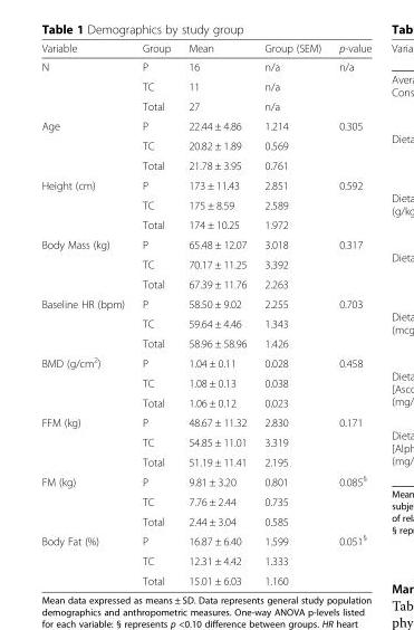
<table><thead><tr><td>Variable</td><td>Group</td><td>Mean</td><td>Group (SEM)</td><td>p-value</td></tr></thead><tbody><tr><td rowspan="3">N</td><td>P</td><td>16</td><td>n/a</td><td>n/a</td></tr><tr><td>TC</td><td>11</td><td>n/a</td><td></td></tr><tr><td>Total</td><td>27</td><td>n/a</td><td></td></tr><tr><td rowspan="3">Age</td><td>P</td><td>22.44 ± 4.86</td><td>1.214</td><td>0.305</td></tr><tr><td>TC</td><td>20.82 ± 1.89</td><td>0.569</td><td></td></tr><tr><td>Total</td><td>21.78 ± 3.95</td><td>0.761</td><td></td></tr><tr><td rowspan="3">Height (cm)</td><td>P</td><td>173 ± 11.43</td><td>2.851</td><td>0.592</td></tr><tr><td>TC</td><td>175 ± 8.59</td><td>2.589</td><td></td></tr><tr><td>Total</td><td>174 ± 10.25</td><td>1.972</td><td></td></tr><tr><td rowspan="3">Body Mass (kg)</td><td>P</td><td>65.48 ± 12.07</td><td>3.018</td><td>0.317</td></tr><tr><td>TC</td><td>70.17 ± 11.25</td><td>3.392</td><td></td></tr><tr><td>Total</td><td>67.39 ± 11.76</td><td>2.263</td><td></td></tr><tr><td rowspan="3">Baseline HR (bpm)</td><td>P</td><td>58.50 ± 9.02</td><td>2.255</td><td>0.703</td></tr><tr><td>TC</td><td>59.64 ± 4.46</td><td>1.343</td><td></td></tr><tr><td>Total</td><td>58.96 ± 58.96</td><td>1.426</td><td></td></tr><tr><td rowspan="3">BMD (g/cm<sup>2</sup>)</td><td>P</td><td>1.04 ± 0.11</td><td>0.028</td><td>0.458</td></tr><tr><td>TC</td><td>1.08 ± 0.13</td><td>0.038</td><td></td></tr><tr><td>Total</td><td>1.06 ± 0.12</td><td>0.023</td><td></td></tr><tr><td rowspan="3">FFM (kg)</td><td>P</td><td>48.67 ± 11.32</td><td>2.830</td><td>0.171</td></tr><tr><td>TC</td><td>54.85 ± 11.01</td><td>3.319</td><td></td></tr><tr><td>Total</td><td>51.19 ± 11.41</td><td>2.195</td><td></td></tr><tr><td rowspan="3">FM (kg)</td><td>P</td><td>9.81 ± 3.20</td><td>0.801</td><td>0.085<sup>§</sup></td></tr><tr><td>TC</td><td>7.76 ± 2.44</td><td>0.735</td><td></td></tr><tr><td>Total</td><td>2.44 ± 3.04</td><td>0.585</td><td></td></tr><tr><td rowspan="3">Body Fat (%)</td><td>P</td><td>16.87 ± 6.40</td><td>1.599</td><td>0.051<sup>§</sup></td></tr><tr><td>TC</td><td>12.31 ± 4.42</td><td>1.333</td><td></td></tr><tr><td>Total</td><td>15.01 ± 6.03</td><td>1.160</td><td></td></tr></tbody></table>